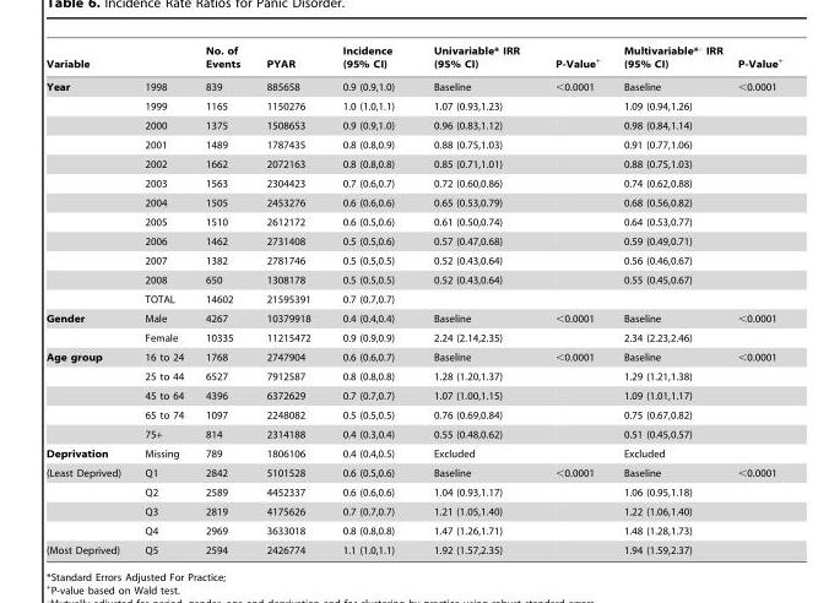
<table><thead><tr><td>Variable</td><td></td><td>No. of Events</td><td>PYAR</td><td>Incidence (95% CI)</td><td>Univariable* IRR (95% CI)</td><td>P-Value+</td><td>Multivariable*‘ IRR (95% CI)</td><td>P-Value+</td></tr></thead><tbody><tr><td rowspan="12">Year</td><td>1998</td><td>839</td><td>885658</td><td>0.9 (0.9,1.0)</td><td>Baseline</td><td>&lt;0.0001</td><td>Baseline</td><td>&lt;0.0001</td></tr><tr><td>1999</td><td>1165</td><td>1150276</td><td>1.0 (1.0,1.1)</td><td>1.07 (0.93,1.23)</td><td></td><td>1.09 (0.94,1.26)</td><td></td></tr><tr><td>2000</td><td>1375</td><td>1508653</td><td>0.9 (0.9,1.0)</td><td>0.96 (0.83,1.12)</td><td></td><td>0.98 (0.84,1.14)</td><td></td></tr><tr><td>2001</td><td>1489</td><td>1787435</td><td>0.8 (0.8,0.9)</td><td>0.88 (0.75,1.03)</td><td></td><td>0.91 (0.77,1.06)</td><td></td></tr><tr><td>2002</td><td>1662</td><td>2072163</td><td>0.8 (0.8,0.8)</td><td>0.85 (0.71,1.01)</td><td></td><td>0.88 (0.75,1.03)</td><td></td></tr><tr><td>2003</td><td>1563</td><td>2304423</td><td>0.7 (0.6,0.7)</td><td>0.72 (0.60,0.86)</td><td></td><td>0.74 (0.62,0.88)</td><td></td></tr><tr><td>2004</td><td>1505</td><td>2453276</td><td>0.6 (0.6,0.6)</td><td>0.65 (0.53,0.79)</td><td></td><td>0.68 (0.56,0.82)</td><td></td></tr><tr><td>2005</td><td>1510</td><td>2612172</td><td>0.6 (0.5,0.6)</td><td>0.61 (0.50,0.74)</td><td></td><td>0.64 (0.53,0.77)</td><td></td></tr><tr><td>2006</td><td>1462</td><td>2731408</td><td>0.5 (0.5,0.6)</td><td>0.57 (0.47,0.68)</td><td></td><td>0.59 (0.49,0.71)</td><td></td></tr><tr><td>2007</td><td>1382</td><td>2781746</td><td>0.5 (0.5,0.5)</td><td>0.52 (0.43,0.64)</td><td></td><td>0.56 (0.46,0.67)</td><td></td></tr><tr><td>2008</td><td>650</td><td>1308178</td><td>0.5 (0.5,0.5)</td><td>0.52 (0.43,0.64)</td><td></td><td>0.55 (0.45,0.67)</td><td></td></tr><tr><td>TOTAL</td><td>14602</td><td>21595391</td><td>0.7 (0.7,0.7)</td><td></td><td></td><td></td><td></td></tr><tr><td rowspan="2">Gender</td><td>Male</td><td>4267</td><td>10379918</td><td>0.4 (0.4,0.4)</td><td>Baseline</td><td>&lt;0.0001</td><td>Baseline</td><td>&lt;0.0001</td></tr><tr><td>Female</td><td>10335</td><td>11215472</td><td>0.9 (0.9,0.9)</td><td>2.24 (2.14,2.35)</td><td></td><td>2.34 (2.23,2.46)</td><td></td></tr><tr><td rowspan="5">Age group</td><td>16 to 24</td><td>1768</td><td>2747904</td><td>0.6 (0.6,0.7)</td><td>Baseline</td><td>&lt;0.0001</td><td>Baseline</td><td>&lt;0.0001</td></tr><tr><td>25 to 44</td><td>6527</td><td>7912587</td><td>0.8 (0.8,0.8)</td><td>1.28 (1.20,1.37)</td><td></td><td>1.29 (1.21,1.38)</td><td></td></tr><tr><td>45 to 64</td><td>4396</td><td>6372629</td><td>0.7 (0.7,0.7)</td><td>1.07 (1.00,1.15)</td><td></td><td>1.09 (1.01,1.17)</td><td></td></tr><tr><td>65 to 74</td><td>1097</td><td>2248082</td><td>0.5 (0.5,0.5)</td><td>0.76 (0.69,0.84)</td><td></td><td>0.75 (0.67,0.82)</td><td></td></tr><tr><td>75+</td><td>814</td><td>2314188</td><td>0.4 (0.3,0.4)</td><td>0.55 (0.48,0.62)</td><td></td><td>0.51 (0.45,0.57)</td><td></td></tr><tr><td>Deprivation</td><td>Missing</td><td>789</td><td>1806106</td><td>0.4 (0.4,0.5)</td><td>Excluded</td><td></td><td>Excluded</td><td></td></tr><tr><td rowspan="4">(Least Deprived)</td><td>Q1</td><td>2842</td><td>5101528</td><td>0.6 (0.5,0.6)</td><td>Baseline</td><td>&lt;0.0001</td><td>Baseline</td><td>&lt;0.0001</td></tr><tr><td>Q2</td><td>2589</td><td>4452337</td><td>0.6 (0.6,0.6)</td><td>1.04 (0.93,1.17)</td><td></td><td>1.06 (0.95,1.18)</td><td></td></tr><tr><td>Q3</td><td>2819</td><td>4175626</td><td>0.7 (0.7,0.7)</td><td>1.21 (1.05,1.40)</td><td></td><td>1.22 (1.06,1.40)</td><td></td></tr><tr><td>Q4</td><td>2969</td><td>3633018</td><td>0.8 (0.8,0.8)</td><td>1.47 (1.26,1.71)</td><td></td><td>1.48 (1.28,1.73)</td><td></td></tr><tr><td>(Most Deprived)</td><td>Q5</td><td>2594</td><td>2426774</td><td>1.1 (1.0,1.1)</td><td>1.92 (1.57,2.35)</td><td></td><td>1.94 (1.59,2.37)</td><td></td></tr></tbody></table>